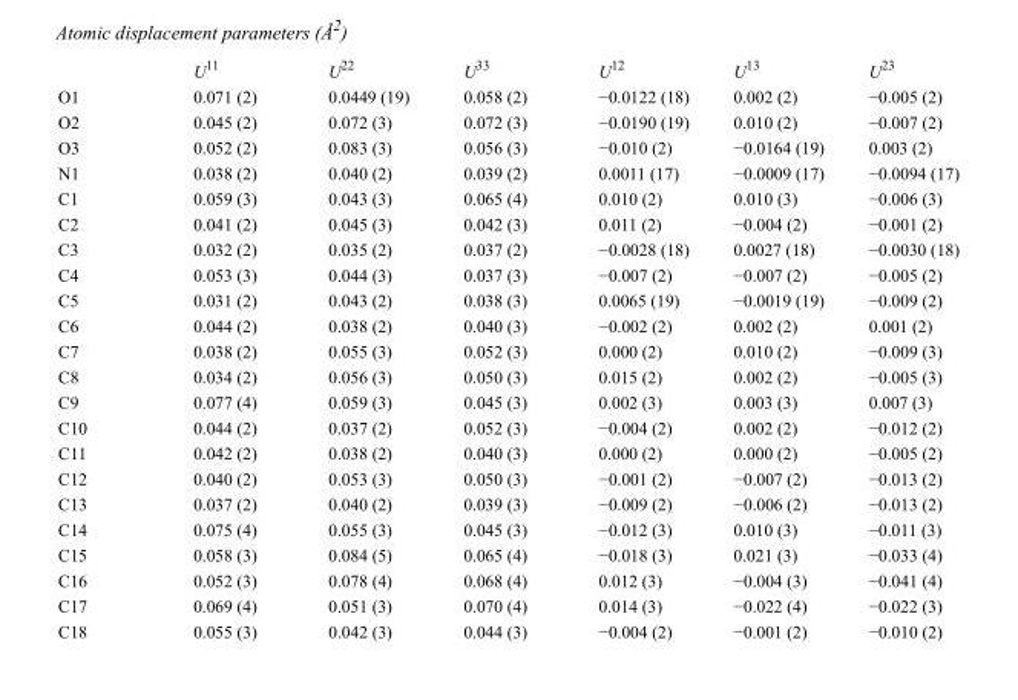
<table><thead><tr><td></td><td>U<sup>11</sup></td><td>U<sup>22</sup></td><td>U<sup>33</sup></td><td>U<sup>12</sup></td><td>U<sup>13</sup></td><td>U<sup>23</sup></td></tr></thead><tbody><tr><td>O1</td><td>0.071 (2)</td><td>0.0449 (19)</td><td>0.058 (2)</td><td>−0.0122 (18)</td><td>0.002 (2)</td><td>−0.005 (2)</td></tr><tr><td>O2</td><td>0.045 (2)</td><td>0.072 (3)</td><td>0.072 (3)</td><td>−0.0190 (19)</td><td>0.010 (2)</td><td>−0.007 (2)</td></tr><tr><td>O3</td><td>0.052 (2)</td><td>0.083 (3)</td><td>0.056 (3)</td><td>−0.010 (2)</td><td>−0.0164 (19)</td><td>0.003 (2)</td></tr><tr><td>N1</td><td>0.038 (2)</td><td>0.040 (2)</td><td>0.039 (2)</td><td>0.0011 (17)</td><td>−0.0009 (17)</td><td>−0.0094 (17)</td></tr><tr><td>C1</td><td>0.059 (3)</td><td>0.043 (3)</td><td>0.065 (4)</td><td>0.010 (2)</td><td>0.010 (3)</td><td>−0.006 (3)</td></tr><tr><td>C2</td><td>0.041 (2)</td><td>0.045 (3)</td><td>0.042 (3)</td><td>0.011 (2)</td><td>−0.004 (2)</td><td>−0.001 (2)</td></tr><tr><td>C3</td><td>0.032 (2)</td><td>0.035 (2)</td><td>0.037 (2)</td><td>−0.0028 (18)</td><td>0.0027 (18)</td><td>−0.0030 (18)</td></tr><tr><td>C4</td><td>0.053 (3)</td><td>0.044 (3)</td><td>0.037 (3)</td><td>−0.007 (2)</td><td>−0.007 (2)</td><td>−0.005 (2)</td></tr><tr><td>C5</td><td>0.031 (2)</td><td>0.043 (2)</td><td>0.038 (3)</td><td>0.0065 (19)</td><td>−0.0019 (19)</td><td>−0.009 (2)</td></tr><tr><td>C6</td><td>0.044 (2)</td><td>0.038 (2)</td><td>0.040 (3)</td><td>−0.002 (2)</td><td>0.002 (2)</td><td>0.001 (2)</td></tr><tr><td>C7</td><td>0.038 (2)</td><td>0.055 (3)</td><td>0.052 (3)</td><td>0.000 (2)</td><td>0.010 (2)</td><td>−0.009 (3)</td></tr><tr><td>C8</td><td>0.034 (2)</td><td>0.056 (3)</td><td>0.050 (3)</td><td>0.015 (2)</td><td>0.002 (2)</td><td>−0.005 (3)</td></tr><tr><td>C9</td><td>0.077 (4)</td><td>0.059 (3)</td><td>0.045 (3)</td><td>0.002 (3)</td><td>0.003 (3)</td><td>0.007 (3)</td></tr><tr><td>C10</td><td>0.044 (2)</td><td>0.037 (2)</td><td>0.052 (3)</td><td>−0.004 (2)</td><td>0.002 (2)</td><td>−0.012 (2)</td></tr><tr><td>C11</td><td>0.042 (2)</td><td>0.038 (2)</td><td>0.040 (3)</td><td>0.000 (2)</td><td>0.000 (2)</td><td>−0.005 (2)</td></tr><tr><td>C12</td><td>0.040 (2)</td><td>0.053 (3)</td><td>0.050 (3)</td><td>−0.001 (2)</td><td>−0.007 (2)</td><td>−0.013 (2)</td></tr><tr><td>C13</td><td>0.037 (2)</td><td>0.040 (2)</td><td>0.039 (3)</td><td>−0.009 (2)</td><td>−0.006 (2)</td><td>−0.013 (2)</td></tr><tr><td>C14</td><td>0.075 (4)</td><td>0.055 (3)</td><td>0.045 (3)</td><td>−0.012 (3)</td><td>0.010 (3)</td><td>−0.011 (3)</td></tr><tr><td>C15</td><td>0.058 (3)</td><td>0.084 (5)</td><td>0.065 (4)</td><td>−0.018 (3)</td><td>0.021 (3)</td><td>−0.033 (4)</td></tr><tr><td>C16</td><td>0.052 (3)</td><td>0.078 (4)</td><td>0.068 (4)</td><td>0.012 (3)</td><td>−0.004 (3)</td><td>−0.041 (4)</td></tr><tr><td>C17</td><td>0.069 (4)</td><td>0.051 (3)</td><td>0.070 (4)</td><td>0.014 (3)</td><td>−0.022 (4)</td><td>−0.022 (3)</td></tr><tr><td>C18</td><td>0.055 (3)</td><td>0.042 (3)</td><td>0.044 (3)</td><td>−0.004 (2)</td><td>−0.001 (2)</td><td>−0.010 (2)</td></tr></tbody></table>